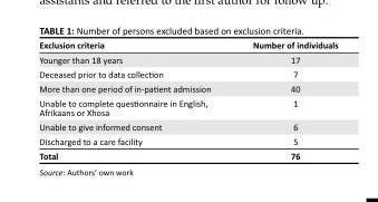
<table><thead><tr><td>Exclusion criteria</td><td>Number of individuals</td></tr></thead><tbody><tr><td>Younger than 18 years</td><td>17</td></tr><tr><td>Deceased prior to data collection</td><td>7</td></tr><tr><td>More than one period of in-patient admission</td><td>40</td></tr><tr><td>Unable to complete questionnaire in English, Afrikaans or Xhosa</td><td>1</td></tr><tr><td>Unable to give informed consent</td><td>6</td></tr><tr><td>Discharged to a care facility</td><td>5</td></tr><tr><td>Total</td><td>76</td></tr></tbody></table>